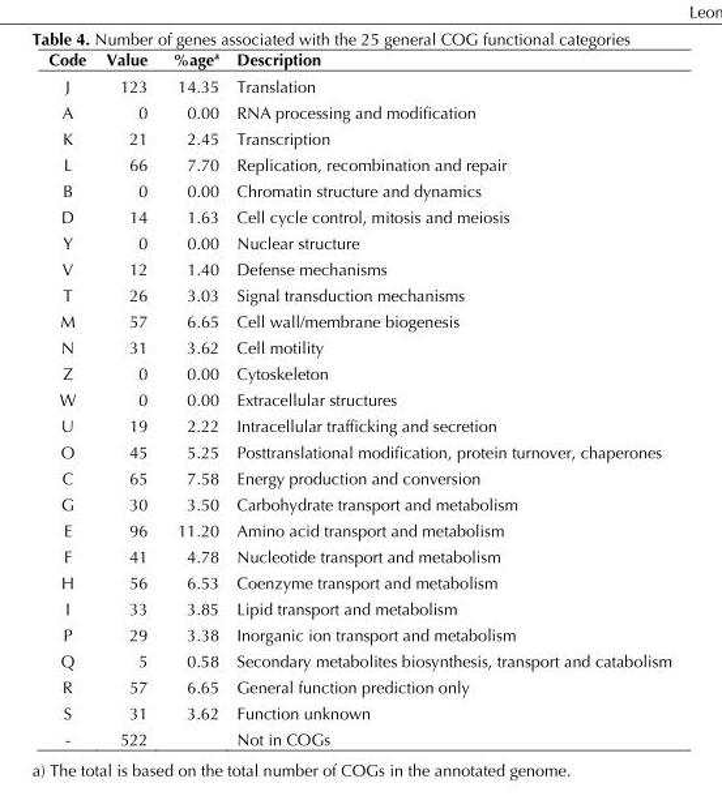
<table><thead><tr><td>Code</td><td>Value</td><td>%age<sup>a</sup></td><td>Description</td></tr></thead><tbody><tr><td>J</td><td>123</td><td>14.35</td><td>Translation</td></tr><tr><td>A</td><td>0</td><td>0.00</td><td>RNA processing and modification</td></tr><tr><td>K</td><td>21</td><td>2.45</td><td>Transcription</td></tr><tr><td>L</td><td>66</td><td>7.70</td><td>Replication, recombination and repair</td></tr><tr><td>B</td><td>0</td><td>0.00</td><td>Chromatin structure and dynamics</td></tr><tr><td>D</td><td>14</td><td>1.63</td><td>Cell cycle control, mitosis and meiosis</td></tr><tr><td>Y</td><td>0</td><td>0.00</td><td>Nuclear structure</td></tr><tr><td>V</td><td>12</td><td>1.40</td><td>Defense mechanisms</td></tr><tr><td>T</td><td>26</td><td>3.03</td><td>Signal transduction mechanisms</td></tr><tr><td>M</td><td>57</td><td>6.65</td><td>Cell wall/membrane biogenesis</td></tr><tr><td>N</td><td>31</td><td>3.62</td><td>Cell motility</td></tr><tr><td>Z</td><td>0</td><td>0.00</td><td>Cytoskeleton</td></tr><tr><td>W</td><td>0</td><td>0.00</td><td>Extracellular structures</td></tr><tr><td>U</td><td>19</td><td>2.22</td><td>Intracellular trafficking and secretion</td></tr><tr><td>O</td><td>45</td><td>5.25</td><td>Posttranslational modification, protein turnover, chaperones</td></tr><tr><td>C</td><td>65</td><td>7.58</td><td>Energy production and conversion</td></tr><tr><td>G</td><td>30</td><td>3.50</td><td>Carbohydrate transport and metabolism</td></tr><tr><td>E</td><td>96</td><td>11.20</td><td>Amino acid transport and metabolism</td></tr><tr><td>F</td><td>41</td><td>4.78</td><td>Nucleotide transport and metabolism</td></tr><tr><td>H</td><td>56</td><td>6.53</td><td>Coenzyme transport and metabolism</td></tr><tr><td>I</td><td>33</td><td>3.85</td><td>Lipid transport and metabolism</td></tr><tr><td>P</td><td>29</td><td>3.38</td><td>Inorganic ion transport and metabolism</td></tr><tr><td>Q</td><td>5</td><td>0.58</td><td>Secondary metabolites biosynthesis, transport and catabolism</td></tr><tr><td>R</td><td>57</td><td>6.65</td><td>General function prediction only</td></tr><tr><td>S</td><td>31</td><td>3.62</td><td>Function unknown</td></tr><tr><td>-</td><td>522</td><td></td><td>Not in COGs</td></tr></tbody></table>